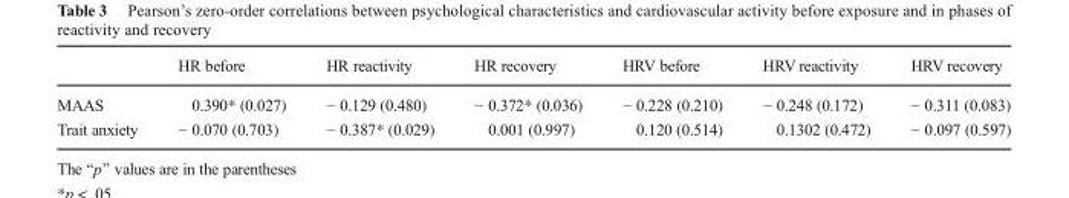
<table><thead><tr><td></td><td>HR before</td><td>HR reactivity</td><td>HR recovery</td><td>HRV before</td><td>HRV reactivity</td><td>HRV recovery</td></tr></thead><tbody><tr><td>MAAS</td><td>0.390* (0.027)</td><td>− 0.129 (0.480)</td><td>− 0.372* (0.036)</td><td>− 0.228 (0.210)</td><td>− 0.248 (0.172)</td><td>− 0.311 (0.083)</td></tr><tr><td>Trait anxiety</td><td>− 0.070 (0.703)</td><td>− 0.387* (0.029)</td><td>0.001 (0.997)</td><td>0.120 (0.514)</td><td>0.1302 (0.472)</td><td>− 0.097 (0.597)</td></tr></tbody></table>